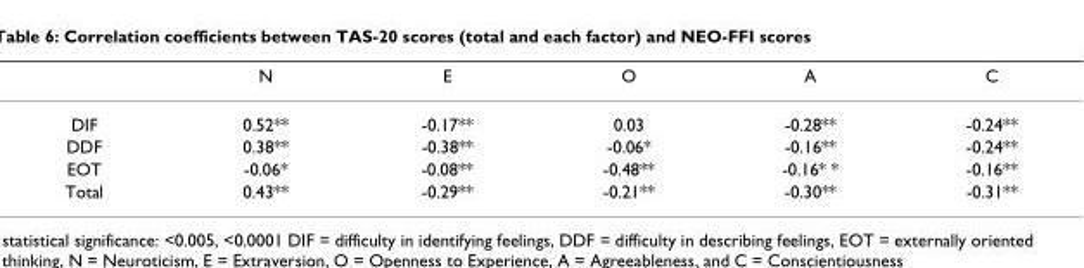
<table><thead><tr><td></td><td>N</td><td>E</td><td>O</td><td>A</td><td>C</td></tr></thead><tbody><tr><td>DIF</td><td>0.52**</td><td>-0.17**</td><td>0.03</td><td>-0.28**</td><td>-0.24**</td></tr><tr><td>DDF</td><td>0.38**</td><td>-0.38**</td><td>-0.06*</td><td>-0.16**</td><td>-0.24**</td></tr><tr><td>EOT</td><td>-0.06*</td><td>-0.08**</td><td>-0.48**</td><td>-0.16* *</td><td>-0.16**</td></tr><tr><td>Total</td><td>0.43**</td><td>-0.29**</td><td>-0.21**</td><td>-0.30**</td><td>-0.31**</td></tr></tbody></table>